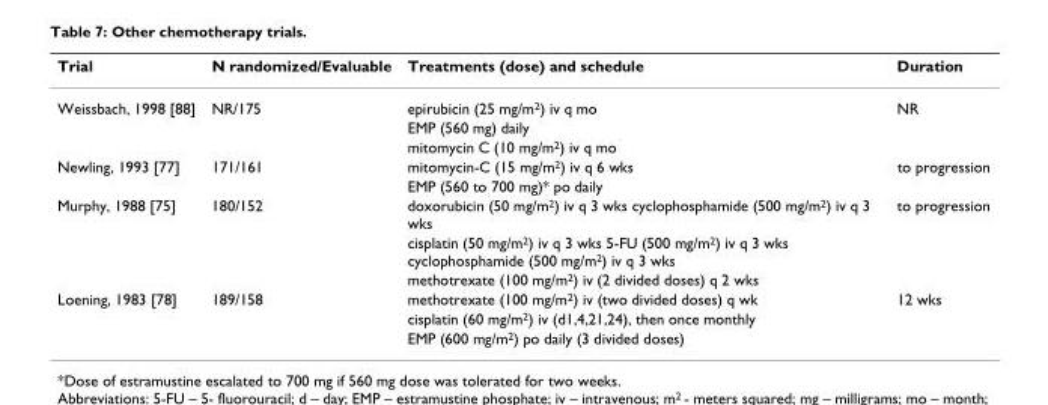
<table><thead><tr><td>Trial</td><td>N randomized/Evaluable</td><td>Treatments (dose) and schedule</td><td>Duration</td></tr></thead><tbody><tr><td rowspan="3">Weissbach, 1998 [88]</td><td>NR/175</td><td>epirubicin (25 mg/m2) iv q mo</td><td>NR</td></tr><tr><td></td><td>EMP (560 mg) daily</td><td></td></tr><tr><td></td><td>mitomycin C (10 mg/m2) iv q mo</td><td></td></tr><tr><td rowspan="2">Newling, 1993 [77]</td><td>171/161</td><td>mitomycin-C (15 mg/m2) iv q 6 wks</td><td>to progression</td></tr><tr><td></td><td>EMP (560 to 700 mg)* po daily</td><td></td></tr><tr><td rowspan="3">Murphy, 1988 [75]</td><td>180/152</td><td>doxorubicin (50 mg/m2) iv q 3 wks cyclophosphamide (500 mg/m2) iv q 3 wks</td><td>to progression</td></tr><tr><td></td><td>cisplatin (50 mg/m2) iv q 3 wks 5-FU (500 mg/m2) iv q 3 wks cyclophosphamide (500 mg/m2) iv q 3 wks</td><td></td></tr><tr><td></td><td>methotrexate (100 mg/m2) iv (2 divided doses) q 2 wks</td><td></td></tr><tr><td rowspan="3">Loening, 1983 [78]</td><td>189/158</td><td>methotrexate (100 mg/m2) iv (two divided doses) q wk</td><td>12 wks</td></tr><tr><td></td><td>cisplatin (60 mg/m2) iv (d1,4,21,24), then once monthly</td><td></td></tr><tr><td></td><td>EMP (600 mg/m2) po daily (3 divided doses)</td><td></td></tr></tbody></table>